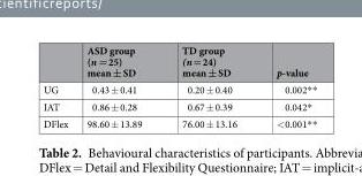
<table><thead><tr><td></td><td>ASD group (n = 25) mean ± SD</td><td>TD group (n = 24) mean ± SD</td><td>p-value</td></tr></thead><tbody><tr><td>UG</td><td>0.43 ± 0.41</td><td>0.20 ± 0.40</td><td>0.002**</td></tr><tr><td>IAT</td><td>0.86 ± 0.28</td><td>0.67 ± 0.39</td><td>0.042*</td></tr><tr><td>DFlex</td><td>98.60 ± 13.89</td><td>76.00 ± 13.16</td><td>&lt;0.001**</td></tr></tbody></table>